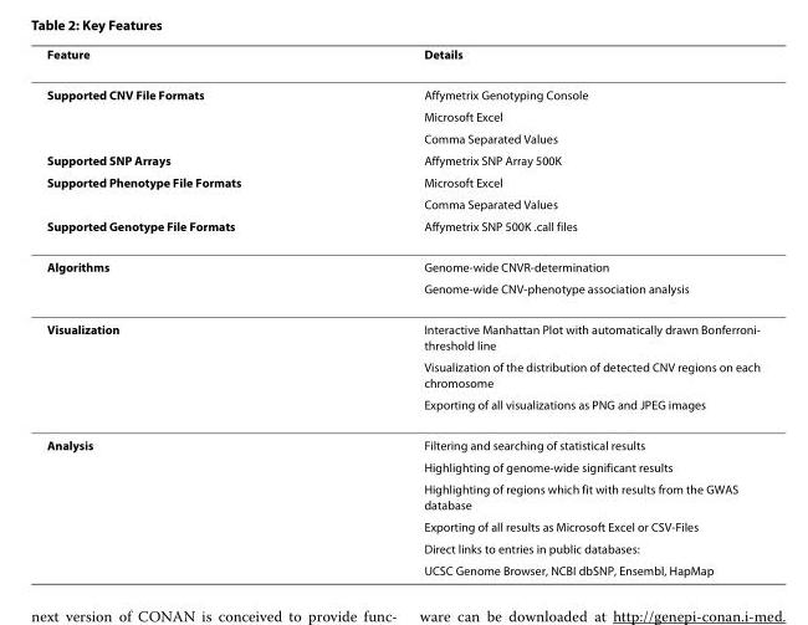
<table><thead><tr><td>Feature</td><td>Details</td></tr></thead><tbody><tr><td rowspan="3">Supported CNV File Formats</td><td>Affymetrix Genotyping Console</td></tr><tr><td>Microsoft Excel</td></tr><tr><td>Comma Separated Values</td></tr><tr><td>Supported SNP Arrays</td><td>Affymetrix SNP Array 500K</td></tr><tr><td rowspan="2">Supported Phenotype File Formats</td><td>Microsoft Excel</td></tr><tr><td>Comma Separated Values</td></tr><tr><td>Supported Genotype File Formats</td><td>Affymetrix SNP 500K .call files</td></tr><tr><td rowspan="2">Algorithms</td><td>Genome-wide CNVR-determination</td></tr><tr><td>Genome-wide CNV-phenotype association analysis</td></tr><tr><td rowspan="3">Visualization</td><td>Interactive Manhattan Plot with automatically drawn Bonferroni- threshold line</td></tr><tr><td>Visualization of the distribution of detected CNV regions on each chromosome</td></tr><tr><td>Exporting of all visualizations as PNG and JPEG images</td></tr><tr><td rowspan="6">Analysis</td><td>Filtering and searching of statistical results</td></tr><tr><td>Highlighting of genome-wide significant results</td></tr><tr><td>Highlighting of regions which fit with results from the GWAS database</td></tr><tr><td>Exporting of all results as Microsoft Excel or CSV-Files</td></tr><tr><td>Direct links to entries in public databases:</td></tr><tr><td>UCSC Genome Browser, NCBI dbSNP, Ensembl, HapMap</td></tr></tbody></table>